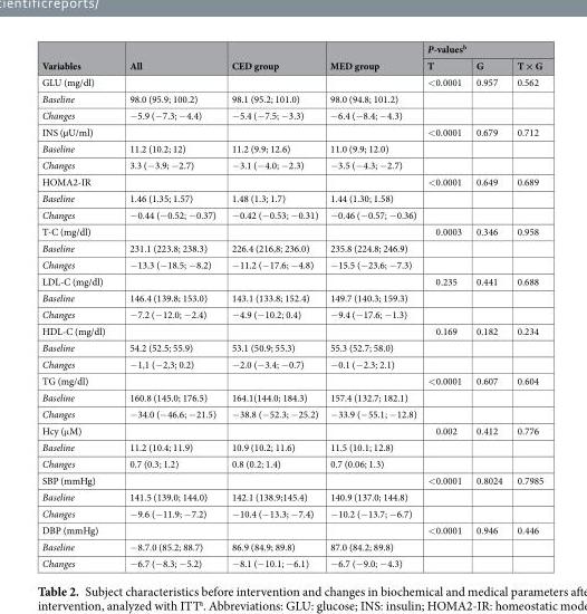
<table><thead><tr><td rowspan="2">Variables</td><td rowspan="2">All</td><td rowspan="2">CED group</td><td rowspan="2">MED group</td><td colspan="3">P-values<sup>b</sup></td></tr><tr><td>T</td><td>G</td><td>T × G</td></tr></thead><tbody><tr><td>GLU (mg/dl)</td><td></td><td></td><td></td><td>&lt;0.0001</td><td>0.957</td><td>0.562</td></tr><tr><td>Baseline</td><td>98.0 (95.9; 100.2)</td><td>98.1 (95.2; 101.0)</td><td>98.0 (94.8; 101.2)</td><td></td><td></td><td></td></tr><tr><td>Changes</td><td>−5.9 (−7.3; −4.4)</td><td>−5.4 (−7.5; −3.3)</td><td>−6.4 (−8.4; −4.3)</td><td></td><td></td><td></td></tr><tr><td>INS (µU/ml)</td><td></td><td></td><td></td><td>&lt;0.0001</td><td>0.679</td><td>0.712</td></tr><tr><td>Baseline</td><td>11.2 (10.2; 12)</td><td>11.2 (9.9; 12.6)</td><td>11.0 (9.9; 12.0)</td><td></td><td></td><td></td></tr><tr><td>Changes</td><td>3.3 (−3.9; −2.7)</td><td>−3.1 (−4.0; −2.3)</td><td>−3.5 (−4.3; −2.7)</td><td></td><td></td><td></td></tr><tr><td>HOMA2-IR</td><td></td><td></td><td></td><td>&lt;0.0001</td><td>0.649</td><td>0.689</td></tr><tr><td>Baseline</td><td>1.46 (1.35; 1.57)</td><td>1.48 (1.3; 1.7)</td><td>1.44 (1.30; 1.58)</td><td></td><td></td><td></td></tr><tr><td>Changes</td><td>−0.44 (−0.52; −0.37)</td><td>−0.42 (−0.53; −0.31)</td><td>−0.46 (−0.57; −0.36)</td><td></td><td></td><td></td></tr><tr><td>T-C (mg/dl)</td><td></td><td></td><td></td><td>0.0003</td><td>0.346</td><td>0.958</td></tr><tr><td>Baseline</td><td>231.1 (223.8; 238.3)</td><td>226.4 (216,8; 236.0)</td><td>235.8 (224.8; 246.9)</td><td></td><td></td><td></td></tr><tr><td>Changes</td><td>−13.3 (−18.5; −8.2)</td><td>−11.2 (−17.6; −4.8)</td><td>−15.5 (−23.6; −7.3)</td><td></td><td></td><td></td></tr><tr><td>LDL-C (mg/dl)</td><td></td><td></td><td></td><td>0.235</td><td>0.441</td><td>0.688</td></tr><tr><td>Baseline</td><td>146.4 (139.8; 153.0)</td><td>143.1 (133.8; 152.4)</td><td>149.7 (140.3; 159.3)</td><td></td><td></td><td></td></tr><tr><td>Changes</td><td>−7.2 (−12.0; −2.4)</td><td>−4.9 (−10.2; 0.4)</td><td>−9.4 (−17.6; −1.3)</td><td></td><td></td><td></td></tr><tr><td>HDL-C (mg/dl)</td><td></td><td></td><td></td><td>0.169</td><td>0.182</td><td>0.234</td></tr><tr><td>Baseline</td><td>54.2 (52.5; 55.9)</td><td>53.1 (50.9; 55.3)</td><td>55.3 (52.7; 58.0)</td><td></td><td></td><td></td></tr><tr><td>Changes</td><td>−1,1 (−2,3; 0.2)</td><td>−2.0 (−3.4; −0.7)</td><td>−0.1 (−2.3; 2.1)</td><td></td><td></td><td></td></tr><tr><td>TG (mg/dl)</td><td></td><td></td><td></td><td>&lt;0.0001</td><td>0.607</td><td>0.604</td></tr><tr><td>Baseline</td><td>160.8 (145.0; 176.5)</td><td>164.1(144.0; 184.3)</td><td>157.4 (132.7; 182.1)</td><td></td><td></td><td></td></tr><tr><td>Changes</td><td>−34.0 (−46.6; −21.5)</td><td>−38.8 (−52.3; −25.2)</td><td>−33.9 (−55.1; −12.8)</td><td></td><td></td><td></td></tr><tr><td>Hcy (μM)</td><td></td><td></td><td></td><td>0.002</td><td>0.412</td><td>0.776</td></tr><tr><td>Baseline</td><td>11.2 (10.4; 11.9)</td><td>10.9 (10.2; 11.6)</td><td>11.5 (10.1; 12.8)</td><td></td><td></td><td></td></tr><tr><td>Changes</td><td>0.7 (0.3; 1.2)</td><td>0.8 (0.2; 1.4)</td><td>0.7 (0.06; 1.3)</td><td></td><td></td><td></td></tr><tr><td>SBP (mmHg)</td><td></td><td></td><td></td><td>&lt;0.0001</td><td>0.8024</td><td>0.7985</td></tr><tr><td>Baseline</td><td>141.5 (139.0; 144.0)</td><td>142.1 (138.9;145.4)</td><td>140.9 (137.0; 144.8)</td><td></td><td></td><td></td></tr><tr><td>Changes</td><td>−9.6 (−11.9; −7.2)</td><td>−10.4 (−13.3; −7.4)</td><td>−10.2 (−13.7; −6.7)</td><td></td><td></td><td></td></tr><tr><td>DBP (mmHg)</td><td></td><td></td><td></td><td>&lt;0.0001</td><td>0.946</td><td>0.446</td></tr><tr><td>Baseline</td><td>−8.7.0 (85.2; 88.7)</td><td>86.9 (84.9; 89.8)</td><td>87.0 (84.2; 89.8)</td><td></td><td></td><td></td></tr><tr><td>Changes</td><td>−6.7 (−8.3; −5.2)</td><td>−8.1 (−10.1; −6.1)</td><td>−6.7 (−9.0; −4.3)</td><td></td><td></td><td></td></tr></tbody></table>